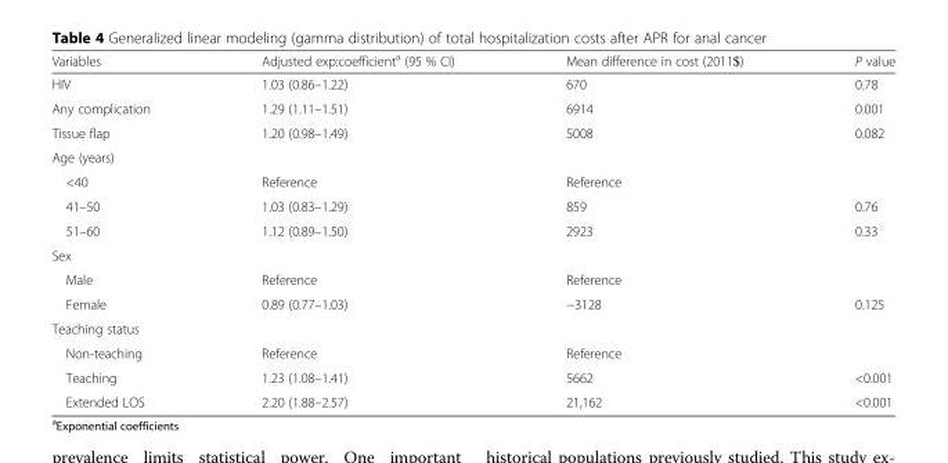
<table><thead><tr><td>Variables</td><td>Adjusted exp:coefficient<sup>a</sup> (95 % CI)</td><td>Mean difference in cost (2011$)</td><td>P value</td></tr></thead><tbody><tr><td>HIV</td><td>1.03 (0.86–1.22)</td><td>670</td><td>0.78</td></tr><tr><td>Any complication</td><td>1.29 (1.11–1.51)</td><td>6914</td><td>0.001</td></tr><tr><td>Tissue flap</td><td>1.20 (0.98–1.49)</td><td>5008</td><td>0.082</td></tr><tr><td colspan="4">Age (years)</td></tr><tr><td>&lt;40</td><td>Reference</td><td>Reference</td><td></td></tr><tr><td>41–50</td><td>1.03 (0.83–1.29)</td><td>859</td><td>0.76</td></tr><tr><td>51–60</td><td>1.12 (0.89–1.50)</td><td>2923</td><td>0.33</td></tr><tr><td colspan="4">Sex</td></tr><tr><td>Male</td><td>Reference</td><td>Reference</td><td></td></tr><tr><td>Female</td><td>0.89 (0.77–1.03)</td><td>−3128</td><td>0.125</td></tr><tr><td colspan="4">Teaching status</td></tr><tr><td>Non-teaching</td><td>Reference</td><td>Reference</td><td></td></tr><tr><td>Teaching</td><td>1.23 (1.08–1.41)</td><td>5662</td><td>&lt;0.001</td></tr><tr><td>Extended LOS</td><td>2.20 (1.88–2.57)</td><td>21,162</td><td>&lt;0.001</td></tr></tbody></table>